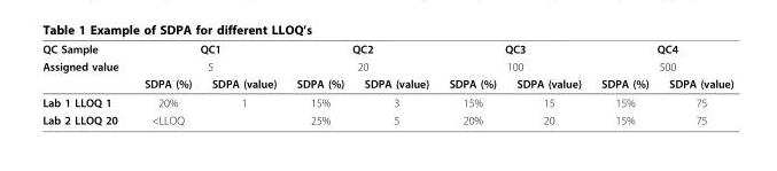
<table><thead><tr><td rowspan="3">QC Sample Assigned value</td><td rowspan="2" colspan="2">QC1 5</td><td rowspan="2" colspan="2">QC2 20</td><td rowspan="2" colspan="2">QC3 100</td><td rowspan="2" colspan="2">QC4 500</td></tr><tr></tr><tr><td>SDPA (%)</td><td>SDPA (value)</td><td>SDPA (%)</td><td>SDPA (value)</td><td>SDPA (%)</td><td>SDPA (value)</td><td>SDPA (%)</td><td>SDPA (value)</td></tr></thead><tbody><tr><td>Lab 1 LLOQ 1</td><td>20%</td><td>1</td><td>15%</td><td>3</td><td>15%</td><td>15</td><td>15%</td><td>75</td></tr><tr><td>Lab 2 LLOQ 20</td><td>&lt;LLOQ</td><td></td><td>25%</td><td>5</td><td>20%</td><td>20</td><td>15%</td><td>75</td></tr></tbody></table>